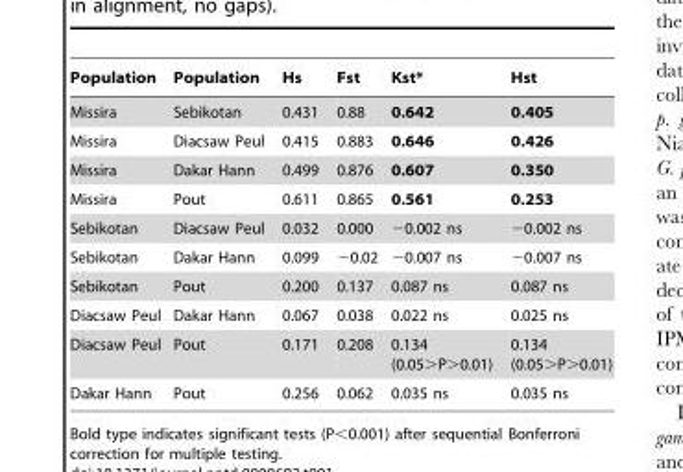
<table><thead><tr><td>Population</td><td>Population</td><td>Hs</td><td>Fst</td><td>Kst*</td><td>Hst</td></tr></thead><tbody><tr><td>Missira</td><td>Sebikotan</td><td>0.431</td><td>0.88</td><td>0.642</td><td>0.405</td></tr><tr><td>Missira</td><td>Diacsaw Peul</td><td>0.415</td><td>0.883</td><td>0.646</td><td>0.426</td></tr><tr><td>Missira</td><td>Dakar Hann</td><td>0.499</td><td>0.876</td><td>0.607</td><td>0.350</td></tr><tr><td>Missira</td><td>Pout</td><td>0.611</td><td>0.865</td><td>0.561</td><td>0.253</td></tr><tr><td>Sebikotan</td><td>Diacsaw Peul</td><td>0.032</td><td>0.000</td><td>−0.002 ns</td><td>−0.002 ns</td></tr><tr><td>Sebikotan</td><td>Dakar Hann</td><td>0.099</td><td>−0.02</td><td>−0.007 ns</td><td>−0.007 ns</td></tr><tr><td>Sebikotan</td><td>Pout</td><td>0.200</td><td>0.137</td><td>0.087 ns</td><td>0.087 ns</td></tr><tr><td>Diacsaw Peul</td><td>Dakar Hann</td><td>0.067</td><td>0.038</td><td>0.022 ns</td><td>0.025 ns</td></tr><tr><td>Diacsaw Peul</td><td>Pout</td><td>0.171</td><td>0.208</td><td>0.134 (0.05&gt;P&gt;0.01)</td><td>0.134 (0.05&gt;P&gt;0.01)</td></tr><tr><td>Dakar Hann</td><td>Pout</td><td>0.256</td><td>0.062</td><td>0.035 ns</td><td>0.035 ns</td></tr></tbody></table>